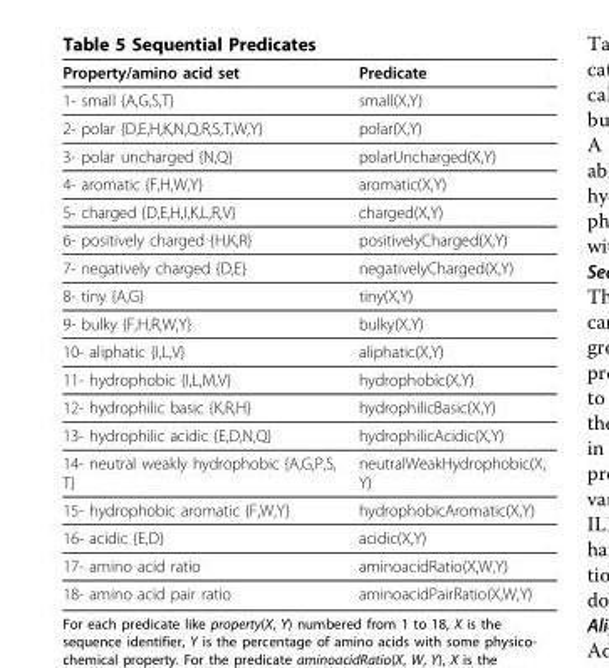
<table><thead><tr><td>Property/amino acid set</td><td>Predicate</td></tr></thead><tbody><tr><td>1- small {A,G,S,T}</td><td>small(X,Y)</td></tr><tr><td>2- polar {D,E,H,K,N,Q,R,S,T,W,Y}</td><td>polar(X,Y)</td></tr><tr><td>3- polar uncharged {N,Q}</td><td>polarUncharged(X,Y)</td></tr><tr><td>4- aromatic {F,H,W,Y}</td><td>aromatic(X,Y)</td></tr><tr><td>5- charged {D,E,H,I,K,L,R,V}</td><td>charged(X,Y)</td></tr><tr><td>6- positively charged {H,K,R}</td><td>positivelyCharged(X,Y)</td></tr><tr><td>7- negatively charged {D,E}</td><td>negativelyCharged(X,Y)</td></tr><tr><td>8- tiny {A,G}</td><td>tiny(X,Y)</td></tr><tr><td>9- bulky {F,H,R,W,Y}</td><td>bulky(X,Y)</td></tr><tr><td>10- aliphatic {I,L,V}</td><td>aliphatic(X,Y)</td></tr><tr><td>11- hydrophobic {I,L,M,V}</td><td>hydrophobic(X,Y)</td></tr><tr><td>12- hydrophilic basic {K,R,H}</td><td>hydrophilicBasic(X,Y)</td></tr><tr><td>13- hydrophilic acidic {E,D,N,Q}</td><td>hydrophilicAcidic(X,Y)</td></tr><tr><td>14- neutral weakly hydrophobic {A,G,P,S, T}</td><td>neutralWeakHydrophobic(X, Y)</td></tr><tr><td>15- hydrophobic aromatic {F,W,Y}</td><td>hydrophobicAromatic(X,Y)</td></tr><tr><td>16- acidic {E,D}</td><td>acidic(X,Y)</td></tr><tr><td>17- amino acid ratio</td><td>aminoacidRatio(X,W,Y)</td></tr><tr><td>18- amino acid pair ratio</td><td>aminoacidPairRatio(X,W,Y)</td></tr></tbody></table>